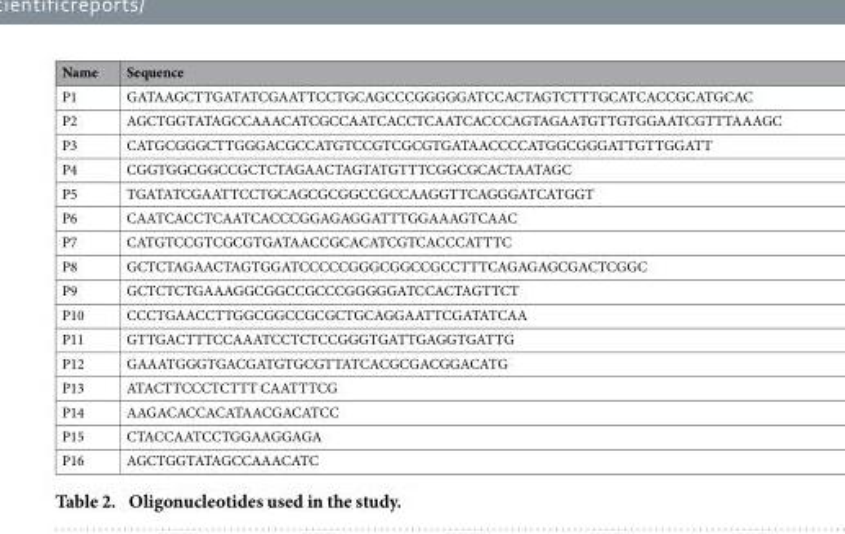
<table><thead><tr><td>Name</td><td>Sequence</td></tr></thead><tbody><tr><td>P1</td><td>GATAAGCTTGATATCGAATTCCTGCAGCCCGGGGGATCCACTAGTCTTTGCATCACCGCATGCAC</td></tr><tr><td>P2</td><td>AGCTGGTATAGCCAAACATCGCCAATCACCTCAATCACCCAGTAGAATGTTGTGGAATCGTTTAAAGC</td></tr><tr><td>P3</td><td>CATGCGGGCTTGGGACGCCATGTCCGTCGCGTGATAACCCCATGGCGGGATTGTTGGATT</td></tr><tr><td>P4</td><td>CGGTGGCGGCCGCTCTAGAACTAGTATGTTTCGGCGCACTAATAGC</td></tr><tr><td>P5</td><td>TGATATCGAATTCCTGCAGCGCGGCCGCCAAGGTTCAGGGATCATGGT</td></tr><tr><td>P6</td><td>CAATCACCTCAATCACCCGGAGAGGATTTGGAAAGTCAAC</td></tr><tr><td>P7</td><td>CATGTCCGTCGCGTGATAACCGCACATCGTCACCCATTTC</td></tr><tr><td>P8</td><td>GCTCTAGAACTAGTGGATCCCCCGGGCGGCCGCCTTTCAGAGAGCGACTCGGC</td></tr><tr><td>P9</td><td>GCTCTCTGAAAGGCGGCCGCCCGGGGGATCCACTAGTTCT</td></tr><tr><td>P10</td><td>CCCTGAACCTTGGCGGCCGCGCTGCAGGAATTCGATATCAA</td></tr><tr><td>P11</td><td>GTTGACTTTCCAAATCCTCTCCGGGTGATTGAGGTGATTG</td></tr><tr><td>P12</td><td>GAAATGGGTGACGATGTGCGTTATCACGCGACGGACATG</td></tr><tr><td>P13</td><td>ATACTTCCCTCTTT CAATTTCG</td></tr><tr><td>P14</td><td>AAGACACCACATAACGACATCC</td></tr><tr><td>P15</td><td>CTACCAATCCTGGAAGGAGA</td></tr><tr><td>P16</td><td>AGCTGGTATAGCCAAACATC</td></tr></tbody></table>